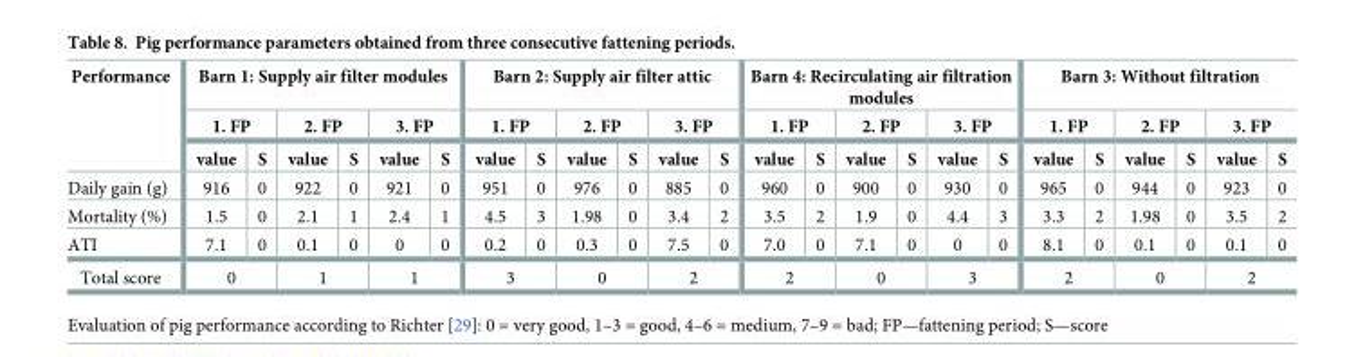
<table><thead><tr><td rowspan="3">Performance</td><td colspan="6">Barn 1: Supply air filter modules</td><td colspan="6">Barn 2: Supply air filter attic</td><td colspan="6">Barn 4: Recirculating air filtration modules</td><td colspan="6">Barn 3: Without filtration</td></tr><tr><td colspan="2">1. FP</td><td colspan="2">2. FP</td><td colspan="2">3. FP</td><td colspan="2">1. FP</td><td colspan="2">2. FP</td><td colspan="2">3. FP</td><td colspan="2">1. FP</td><td colspan="2">2. FP</td><td colspan="2">3. FP</td><td colspan="2">1. FP</td><td colspan="2">2. FP</td><td colspan="2">3. FP</td></tr><tr><td>value</td><td>S</td><td>value</td><td>S</td><td>value</td><td>S</td><td>value</td><td>S</td><td>value</td><td>S</td><td>value</td><td>S</td><td>value</td><td>S</td><td>value</td><td>S</td><td>value</td><td>S</td><td>value</td><td>S</td><td>value</td><td>S</td><td>value</td><td>S</td></tr></thead><tbody><tr><td>Daily gain (g)</td><td>916</td><td>0</td><td>922</td><td>0</td><td>921</td><td>0</td><td>951</td><td>0</td><td>976</td><td>0</td><td>885</td><td>0</td><td>960</td><td>0</td><td>900</td><td>0</td><td>930</td><td>0</td><td>965</td><td>0</td><td>944</td><td>0</td><td>923</td><td>0</td></tr><tr><td>Mortality (%)</td><td>1.5</td><td>0</td><td>2.1</td><td>1</td><td>2.4</td><td>1</td><td>4.5</td><td>3</td><td>1.98</td><td>0</td><td>3.4</td><td>2</td><td>3.5</td><td>2</td><td>1.9</td><td>0</td><td>4.4</td><td>3</td><td>3.3</td><td>2</td><td>1.98</td><td>0</td><td>3.5</td><td>2</td></tr><tr><td>ATI</td><td>7.1</td><td>0</td><td>0.1</td><td>0</td><td>0</td><td>0</td><td>0.2</td><td>0</td><td>0.3</td><td>0</td><td>7.5</td><td>0</td><td>7.0</td><td>0</td><td>7.1</td><td>0</td><td>0</td><td>0</td><td>8.1</td><td>0</td><td>0.1</td><td>0</td><td>0.1</td><td>0</td></tr><tr><td>Total score</td><td colspan="2">0</td><td colspan="2">1</td><td colspan="2">1</td><td colspan="2">3</td><td colspan="2">0</td><td colspan="2">2</td><td colspan="2">2</td><td colspan="2">0</td><td colspan="2">3</td><td colspan="2">2</td><td colspan="2">0</td><td colspan="2">2</td></tr></tbody></table>